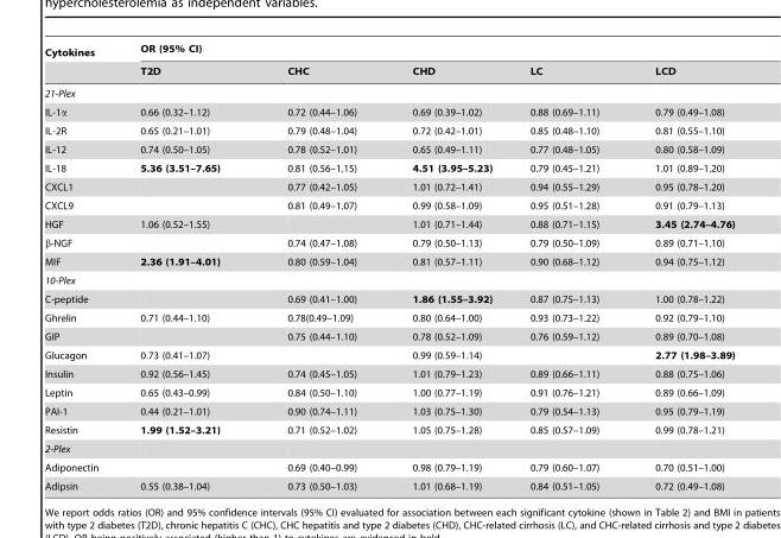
<table><thead><tr><td rowspan="2">Cytokines</td><td colspan="5">OR (95% CI)</td></tr><tr><td>T2D</td><td>CHC</td><td>CHD</td><td>LC</td><td>LCD</td></tr></thead><tbody><tr><td colspan="6">21-Plex</td></tr><tr><td>IL-1α</td><td>0.66 (0.32–1.12)</td><td>0.72 (0.44–1.06)</td><td>0.69 (0.39–1.02)</td><td>0.88 (0.69–1.11)</td><td>0.79 (0.49–1.08)</td></tr><tr><td>IL-2R</td><td>0.65 (0.21–1.01)</td><td>0.79 (0.48–1.04)</td><td>0.72 (0.42–1.01)</td><td>0.85 (0.48–1.10)</td><td>0.81 (0.55–1.10)</td></tr><tr><td>IL-12</td><td>0.74 (0.50–1.05)</td><td>0.78 (0.52–1.01)</td><td>0.65 (0.49–1.11)</td><td>0.77 (0.48–1.05)</td><td>0.80 (0.58–1.09)</td></tr><tr><td>IL-18</td><td>5.36 (3.51–7.65)</td><td>0.81 (0.56–1.15)</td><td>4.51 (3.95–5.23)</td><td>0.79 (0.45–1.21)</td><td>1.01 (0.89–1.20)</td></tr><tr><td>CXCL1</td><td></td><td>0.77 (0.42–1.05)</td><td>1.01 (0.72–1.41)</td><td>0.94 (0.55–1.29)</td><td>0.95 (0.78–1.20)</td></tr><tr><td>CXCL9</td><td></td><td>0.81 (0.49–1.07)</td><td>0.99 (0.58–1.09)</td><td>0.95 (0.51–1.28)</td><td>0.91 (0.79–1.13)</td></tr><tr><td>HGF</td><td>1.06 (0.52–1.55)</td><td></td><td>1.01 (0.71–1.44)</td><td>0.88 (0.71–1.15)</td><td>3.45 (2.74–4.76)</td></tr><tr><td>β-NGF</td><td></td><td>0.74 (0.47–1.08)</td><td>0.79 (0.50–1.13)</td><td>0.79 (0.50–1.09)</td><td>0.89 (0.71–1.10)</td></tr><tr><td>MIF</td><td>2.36 (1.91–4.01)</td><td>0.80 (0.59–1.04)</td><td>0.81 (0.57–1.11)</td><td>0.90 (0.68–1.12)</td><td>0.94 (0.75–1.12)</td></tr><tr><td colspan="6">10-Plex</td></tr><tr><td>C-peptide</td><td></td><td>0.69 (0.41–1.00)</td><td>1.86 (1.55–3.92)</td><td>0.87 (0.75–1.13)</td><td>1.00 (0.78–1.22)</td></tr><tr><td>Ghrelin</td><td>0.71 (0.44–1.10)</td><td>0.78(0.49–1.09)</td><td>0.80 (0.64–1.00)</td><td>0.93 (0.73–1.22)</td><td>0.92 (0.79–1.10)</td></tr><tr><td>GIP</td><td></td><td>0.75 (0.44–1.10)</td><td>0.78 (0.52–1.09)</td><td>0.76 (0.59–1.12)</td><td>0.89 (0.70–1.08)</td></tr><tr><td>Glucagon</td><td>0.73 (0.41–1.07)</td><td></td><td>0.99 (0.59–1.14)</td><td></td><td>2.77 (1.98–3.89)</td></tr><tr><td>Insulin</td><td>0.92 (0.56–1.45)</td><td>0.74 (0.45–1.05)</td><td>1.01 (0.79–1.23)</td><td>0.89 (0.66–1.11)</td><td>0.88 (0.75–1.06)</td></tr><tr><td>Leptin</td><td>0.65 (0.43–0.99)</td><td>0.84 (0.50–1.10)</td><td>1.00 (0.77–1.19)</td><td>0.91 (0.76–1.21)</td><td>0.89 (0.66–1.09)</td></tr><tr><td>PAI-1</td><td>0.44 (0.21–1.01)</td><td>0.90 (0.74–1.11)</td><td>1.03 (0.75–1.30)</td><td>0.79 (0.54–1.13)</td><td>0.95 (0.79–1.19)</td></tr><tr><td>Resistin</td><td>1.99 (1.52–3.21)</td><td>0.71 (0.52–1.02)</td><td>1.05 (0.75–1.28)</td><td>0.85 (0.57–1.09)</td><td>0.99 (0.78–1.21)</td></tr><tr><td colspan="6">2-Plex</td></tr><tr><td>Adiponectin</td><td></td><td>0.69 (0.40–0.99)</td><td>0.98 (0.79–1.19)</td><td>0.79 (0.60–1.07)</td><td>0.70 (0.51–1.00)</td></tr><tr><td>Adipsin</td><td>0.55 (0.38–1.04)</td><td>0.73 (0.50–1.03)</td><td>1.01 (0.68–1.19)</td><td>0.84 (0.51–1.05)</td><td>0.72 (0.49–1.08)</td></tr></tbody></table>